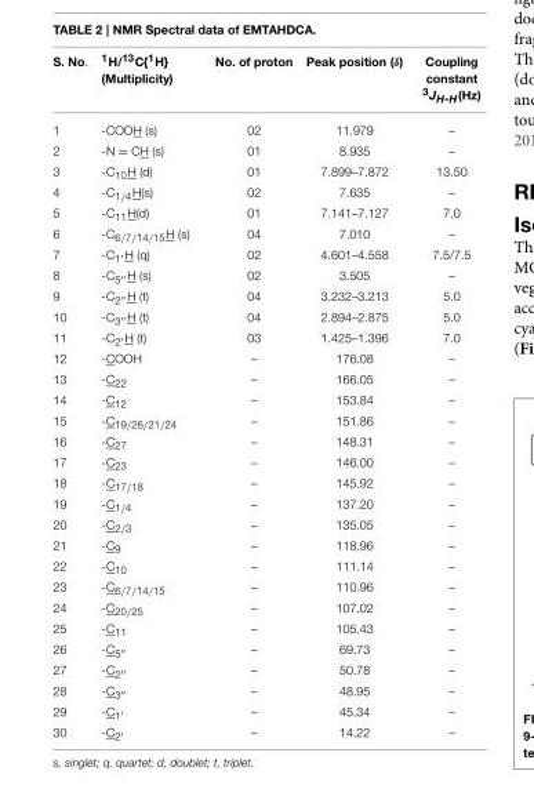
<table><thead><tr><td>S. No.</td><td><sup>1</sup>H/<sup>13</sup>C{<sup>1</sup>H} (Multiplicity)</td><td>No. of proton</td><td>Peak position (δ)</td><td>Coupling constant 3JH-H(Hz)</td></tr></thead><tbody><tr><td>1</td><td>-COOH (s)</td><td>02</td><td>11.979</td><td>–</td></tr><tr><td>2</td><td>-N = CH (s)</td><td>01</td><td>8.935</td><td>–</td></tr><tr><td>3</td><td>-C<sub>10</sub>H (d)</td><td>01</td><td>7.899–7.872</td><td>13.50</td></tr><tr><td>4</td><td>-C<sub>1/4</sub>H(s)</td><td>02</td><td>7.635</td><td>–</td></tr><tr><td>5</td><td>-C<sub>11</sub>H(d)</td><td>01</td><td>7.141–7.127</td><td>7.0</td></tr><tr><td>6</td><td>-C<sub>6/7/14/15</sub>H (s)</td><td>04</td><td>7.010</td><td>–</td></tr><tr><td>7</td><td>-C<sub>1′</sub>H (q)</td><td>02</td><td>4.601–4.558</td><td>7.5/7.5</td></tr><tr><td>8</td><td>-C<sub>5′′</sub>H (s)</td><td>02</td><td>3.505</td><td>–</td></tr><tr><td>9</td><td>-C<sub>2′′</sub>H (t)</td><td>04</td><td>3.232–3.213</td><td>5.0</td></tr><tr><td>10</td><td>-C<sub>3′′</sub>H (t)</td><td>04</td><td>2.894–2.875</td><td>5.0</td></tr><tr><td>11</td><td>-C<sub>2′</sub>H (t)</td><td>03</td><td>1.425–1.396</td><td>7.0</td></tr><tr><td>12</td><td>-COOH</td><td>–</td><td>176.08</td><td>–</td></tr><tr><td>13</td><td>-C<sub>22</sub></td><td>–</td><td>166.05</td><td>–</td></tr><tr><td>14</td><td>-C<sub>12</sub></td><td>–</td><td>153.84</td><td>–</td></tr><tr><td>15</td><td>-C<sub>19/26/21/24</sub></td><td>–</td><td>151.86</td><td>–</td></tr><tr><td>16</td><td>-C<sub>27</sub></td><td>–</td><td>148.31</td><td>–</td></tr><tr><td>17</td><td>-C<sub>23</sub></td><td>–</td><td>146.00</td><td>–</td></tr><tr><td>18</td><td>-C<sub>17/18</sub></td><td>–</td><td>145.92</td><td>–</td></tr><tr><td>19</td><td>-C<sub>1/4</sub></td><td>–</td><td>137.20</td><td>–</td></tr><tr><td>20</td><td>-C<sub>2/3</sub></td><td>–</td><td>135.05</td><td>–</td></tr><tr><td>21</td><td>-C<sub>9</sub></td><td>–</td><td>118.96</td><td>–</td></tr><tr><td>22</td><td>-C<sub>10</sub></td><td>–</td><td>111.14</td><td>–</td></tr><tr><td>23</td><td>-C<sub>6/7/14/15</sub></td><td>–</td><td>110.96</td><td>–</td></tr><tr><td>24</td><td>-C<sub>20/25</sub></td><td>–</td><td>107.02</td><td>–</td></tr><tr><td>25</td><td>-C<sub>11</sub></td><td>–</td><td>105.43</td><td>–</td></tr><tr><td>26</td><td>-C<sub>5′′</sub></td><td>–</td><td>69.73</td><td>–</td></tr><tr><td>27</td><td>-C<sub>2′′</sub></td><td>–</td><td>50.78</td><td>–</td></tr><tr><td>28</td><td>-C<sub>3′′</sub></td><td>–</td><td>48.95</td><td>–</td></tr><tr><td>29</td><td>-C<sub>1′</sub></td><td>–</td><td>45.34</td><td>–</td></tr><tr><td>30</td><td>-C<sub>2′</sub></td><td>–</td><td>14.22</td><td>–</td></tr></tbody></table>